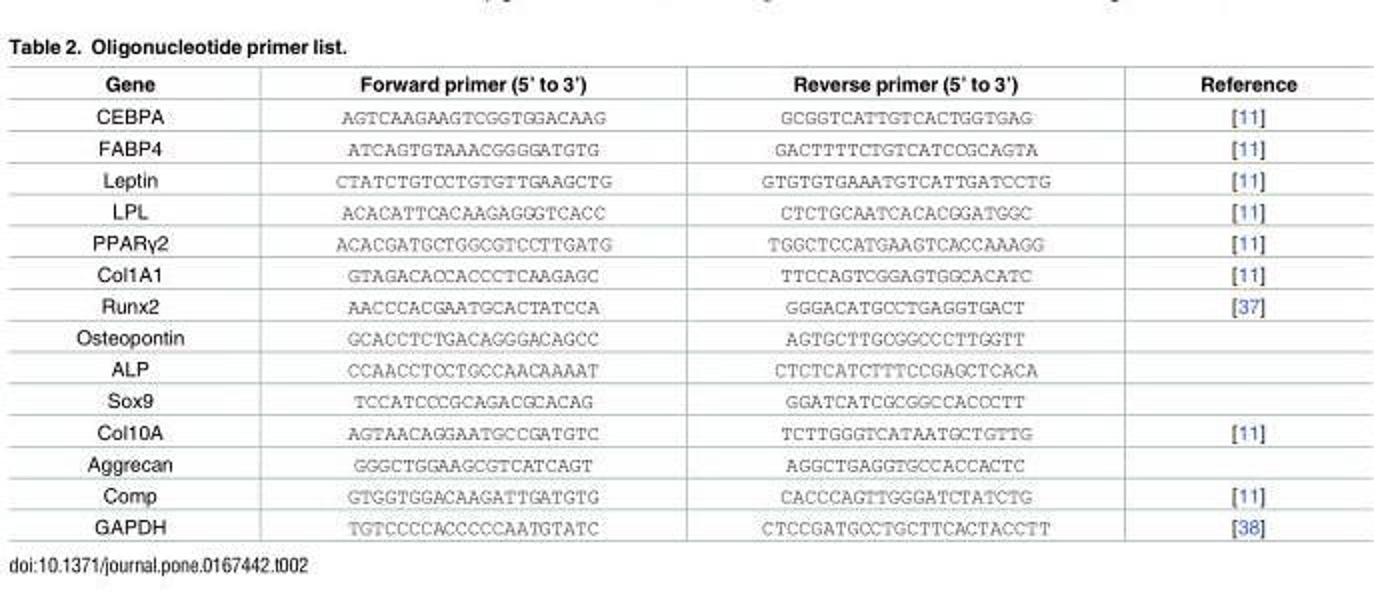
<table><thead><tr><td>Gene</td><td>Forward primer (5’ to 3’)</td><td>Reverse primer (5’ to 3’)</td><td>Reference</td></tr></thead><tbody><tr><td>CEBPA</td><td>AGTCAAGAAGTCGGTGGACAAG</td><td>GCGGTCATTGTCACTGGTGAG</td><td>[11]</td></tr><tr><td>FABP4</td><td>ATCAGTGTAAACGGGGATGTG</td><td>GACTTTTCTGTCATCCGCAGTA</td><td>[11]</td></tr><tr><td>Leptin</td><td>CTATCTGTCCTGTGTTGAAGCTG</td><td>GTGTGTGAAATGTCATTGATCCTG</td><td>[11]</td></tr><tr><td>LPL</td><td>ACACATTCACAAGAGGGTCACC</td><td>CTCTGCAATCACACGGATGGC</td><td>[11]</td></tr><tr><td>PPARγ2</td><td>ACACGATGCTGGCGTCCTTGATG</td><td>TGGCTCCATGAAGTCACCAAAGG</td><td>[11]</td></tr><tr><td>Col1A1</td><td>GTAGACACCACCCTCAAGAGC</td><td>TTCCAGTCGGAGTGGCACATC</td><td>[11]</td></tr><tr><td>Runx2</td><td>AACCCACGAATGCACTATCCA</td><td>GGGACATGCCTGAGGTGACT</td><td>[37]</td></tr><tr><td>Osteopontin</td><td>GCACCTCTGACAGGGACAGCC</td><td>AGTGCTTGCGGCCCTTGGTT</td><td></td></tr><tr><td>ALP</td><td>CCAACCTCCTGCCAACAAAAT</td><td>CTCTCATCTTTCCGAGCTCACA</td><td></td></tr><tr><td>Sox9</td><td>TCCATCCCGCAGACGCACAG</td><td>GGATCATCGCGGCCACCCTT</td><td></td></tr><tr><td>Col10A</td><td>AGTAACAGGAATGCCGATGTC</td><td>TCTTGGGTCATAATGCTGTTG</td><td>[11]</td></tr><tr><td>Aggrecan</td><td>GGGCTGGAAGCGTCATCAGT</td><td>AGGCTGAGGTGCCACCACTC</td><td></td></tr><tr><td>Comp</td><td>GTGGTGGACAAGATTGATGTG</td><td>CACCCAGTTGGGATCTATCTG</td><td>[11]</td></tr><tr><td>GAPDH</td><td>TGTCCCCACCCCCAATGTATC</td><td>CTCCGATGCCTGCTTCACTACCTT</td><td>[38]</td></tr></tbody></table>